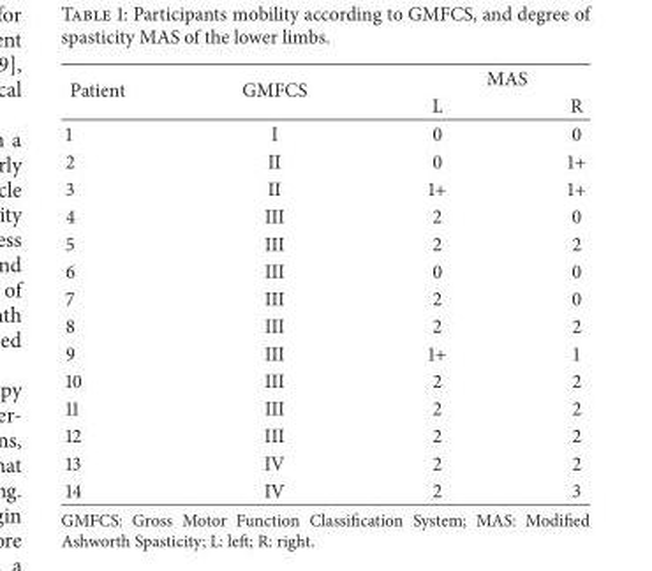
<table><thead><tr><td rowspan="2">Patient</td><td rowspan="2">GMFCS</td><td colspan="2">MAS</td></tr><tr><td>L</td><td>R</td></tr></thead><tbody><tr><td>1</td><td>I</td><td>0</td><td>0</td></tr><tr><td>2</td><td>II</td><td>0</td><td>1+</td></tr><tr><td>3</td><td>II</td><td>1+</td><td>1+</td></tr><tr><td>4</td><td>III</td><td>2</td><td>0</td></tr><tr><td>5</td><td>III</td><td>2</td><td>2</td></tr><tr><td>6</td><td>III</td><td>0</td><td>0</td></tr><tr><td>7</td><td>III</td><td>2</td><td>0</td></tr><tr><td>8</td><td>III</td><td>2</td><td>2</td></tr><tr><td>9</td><td>III</td><td>1+</td><td>1</td></tr><tr><td>10</td><td>III</td><td>2</td><td>2</td></tr><tr><td>11</td><td>III</td><td>2</td><td>2</td></tr><tr><td>12</td><td>III</td><td>2</td><td>2</td></tr><tr><td>13</td><td>IV</td><td>2</td><td>2</td></tr><tr><td>14</td><td>IV</td><td>2</td><td>3</td></tr></tbody></table>